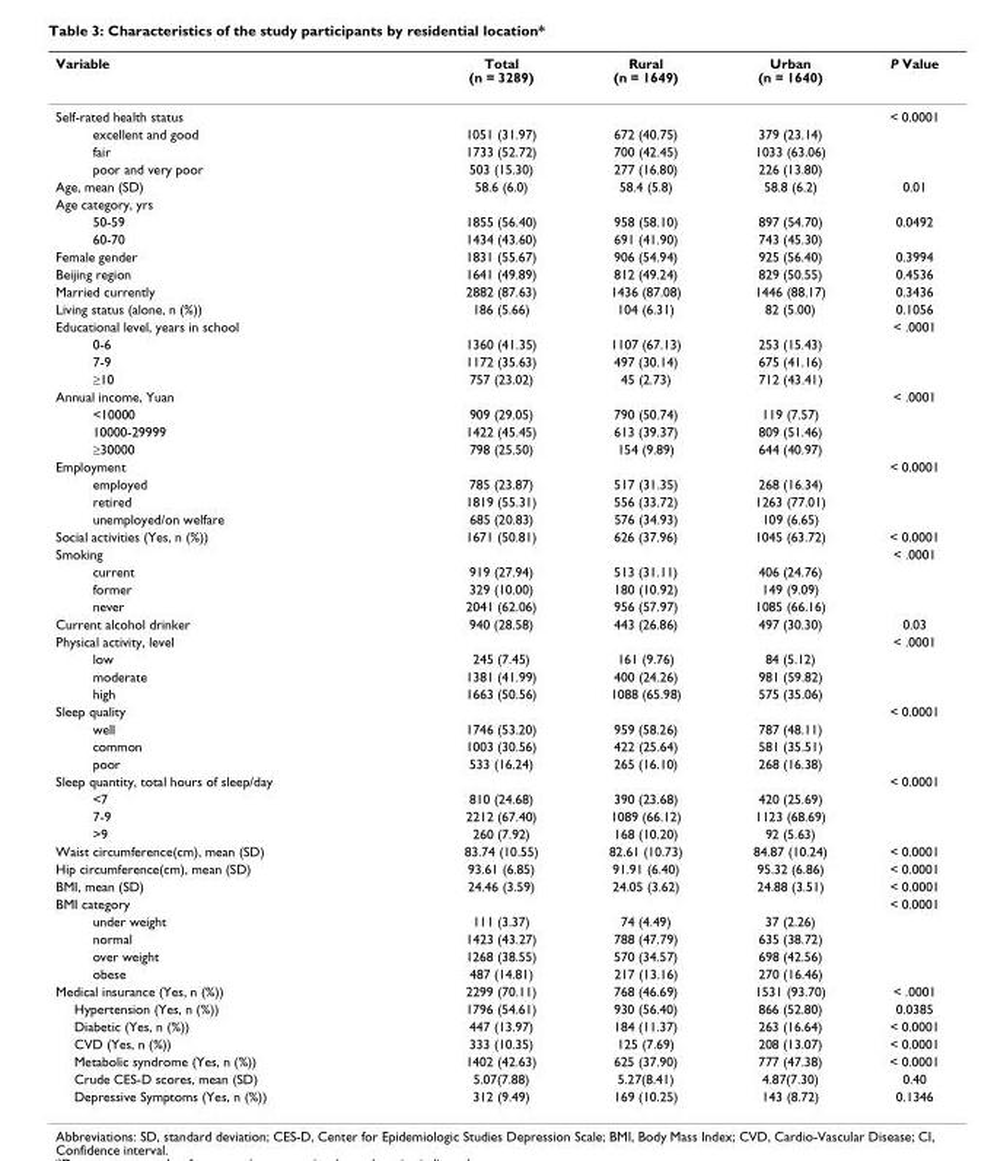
<table><thead><tr><td>Variable</td><td>Total (n = 3289)</td><td>Rural (n = 1649)</td><td>Urban (n = 1640)</td><td>P Value</td></tr></thead><tbody><tr><td>Self-rated health status</td><td></td><td></td><td></td><td>&lt; 0.0001</td></tr><tr><td>excellent and good</td><td>1051 (31.97)</td><td>672 (40.75)</td><td>379 (23.14)</td><td></td></tr><tr><td>fair</td><td>1733 (52.72)</td><td>700 (42.45)</td><td>1033 (63.06)</td><td></td></tr><tr><td>poor and very poor</td><td>503 (15.30)</td><td>277 (16.80)</td><td>226 (13.80)</td><td></td></tr><tr><td>Age, mean (SD)</td><td>58.6 (6.0)</td><td>58.4 (5.8)</td><td>58.8 (6.2)</td><td>0.01</td></tr><tr><td colspan="5">Age category, yrs</td></tr><tr><td>50-59</td><td>1855 (56.40)</td><td>958 (58.10)</td><td>897 (54.70)</td><td>0.0492</td></tr><tr><td>60-70</td><td>1434 (43.60)</td><td>691 (41.90)</td><td>743 (45.30)</td><td></td></tr><tr><td>Female gender</td><td>1831 (55.67)</td><td>906 (54.94)</td><td>925 (56.40)</td><td>0.3994</td></tr><tr><td>Beijing region</td><td>1641 (49.89)</td><td>812 (49.24)</td><td>829 (50.55)</td><td>0.4536</td></tr><tr><td>Married currently</td><td>2882 (87.63)</td><td>1436 (87.08)</td><td>1446 (88.17)</td><td>0.3436</td></tr><tr><td>Living status (alone, n (%))</td><td>186 (5.66)</td><td>104 (6.31)</td><td>82 (5.00)</td><td>0.1056</td></tr><tr><td>Educational level, years in school</td><td></td><td></td><td></td><td>&lt; .0001</td></tr><tr><td>0-6</td><td>1360 (41.35)</td><td>1107 (67.13)</td><td>253 (15.43)</td><td></td></tr><tr><td>7-9</td><td>1172 (35.63)</td><td>497 (30.14)</td><td>675 (41.16)</td><td></td></tr><tr><td>≥10</td><td>757 (23.02)</td><td>45 (2.73)</td><td>712 (43.41)</td><td></td></tr><tr><td>Annual income, Yuan</td><td></td><td></td><td></td><td>&lt; .0001</td></tr><tr><td>&lt;10000</td><td>909 (29.05)</td><td>790 (50.74)</td><td>119 (7.57)</td><td></td></tr><tr><td>10000-29999</td><td>1422 (45.45)</td><td>613 (39.37)</td><td>809 (51.46)</td><td></td></tr><tr><td>≥30000</td><td>798 (25.50)</td><td>154 (9.89)</td><td>644 (40.97)</td><td></td></tr><tr><td>Employment</td><td></td><td></td><td></td><td>&lt; 0.0001</td></tr><tr><td>employed</td><td>785 (23.87)</td><td>517 (31.35)</td><td>268 (16.34)</td><td></td></tr><tr><td>retired</td><td>1819 (55.31)</td><td>556 (33.72)</td><td>1263 (77.01)</td><td></td></tr><tr><td>unemployed/on welfare</td><td>685 (20.83)</td><td>576 (34.93)</td><td>109 (6.65)</td><td></td></tr><tr><td>Social activities (Yes, n (%))</td><td>1671 (50.81)</td><td>626 (37.96)</td><td>1045 (63.72)</td><td>&lt; 0.0001</td></tr><tr><td>Smoking</td><td></td><td></td><td></td><td>&lt; .0001</td></tr><tr><td>current</td><td>919 (27.94)</td><td>513 (31.11)</td><td>406 (24.76)</td><td></td></tr><tr><td>former</td><td>329 (10.00)</td><td>180 (10.92)</td><td>149 (9.09)</td><td></td></tr><tr><td>never</td><td>2041 (62.06)</td><td>956 (57.97)</td><td>1085 (66.16)</td><td></td></tr><tr><td>Current alcohol drinker</td><td>940 (28.58)</td><td>443 (26.86)</td><td>497 (30.30)</td><td>0.03</td></tr><tr><td>Physical activity, level</td><td></td><td></td><td></td><td>&lt; .0001</td></tr><tr><td>low</td><td>245 (7.45)</td><td>161 (9.76)</td><td>84 (5.12)</td><td></td></tr><tr><td>moderate</td><td>1381 (41.99)</td><td>400 (24.26)</td><td>981 (59.82)</td><td></td></tr><tr><td>high</td><td>1663 (50.56)</td><td>1088 (65.98)</td><td>575 (35.06)</td><td></td></tr><tr><td>Sleep quality</td><td></td><td></td><td></td><td>&lt; 0.0001</td></tr><tr><td>well</td><td>1746 (53.20)</td><td>959 (58.26)</td><td>787 (48.11)</td><td></td></tr><tr><td>common</td><td>1003 (30.56)</td><td>422 (25.64)</td><td>581 (35.51)</td><td></td></tr><tr><td>poor</td><td>533 (16.24)</td><td>265 (16.10)</td><td>268 (16.38)</td><td></td></tr><tr><td>Sleep quantity, total hours of sleep/day</td><td></td><td></td><td></td><td>&lt; 0.0001</td></tr><tr><td>&lt;7</td><td>810 (24.68)</td><td>390 (23.68)</td><td>420 (25.69)</td><td></td></tr><tr><td>7-9</td><td>2212 (67.40)</td><td>1089 (66.12)</td><td>1123 (68.69)</td><td></td></tr><tr><td>&gt;9</td><td>260 (7.92)</td><td>168 (10.20)</td><td>92 (5.63)</td><td></td></tr><tr><td>Waist circumference(cm), mean (SD)</td><td>83.74 (10.55)</td><td>82.61 (10.73)</td><td>84.87 (10.24)</td><td>&lt; 0.0001</td></tr><tr><td>Hip circumference(cm), mean (SD)</td><td>93.61 (6.85)</td><td>91.91 (6.40)</td><td>95.32 (6.86)</td><td>&lt; 0.0001</td></tr><tr><td>BMI, mean (SD)</td><td>24.46 (3.59)</td><td>24.05 (3.62)</td><td>24.88 (3.51)</td><td>&lt; 0.0001</td></tr><tr><td>BMI category</td><td></td><td></td><td></td><td>&lt; 0.0001</td></tr><tr><td>under weight</td><td>111 (3.37)</td><td>74 (4.49)</td><td>37 (2.26)</td><td></td></tr><tr><td>normal</td><td>1423 (43.27)</td><td>788 (47.79)</td><td>635 (38.72)</td><td></td></tr><tr><td>over weight</td><td>1268 (38.55)</td><td>570 (34.57)</td><td>698 (42.56)</td><td></td></tr><tr><td>obese</td><td>487 (14.81)</td><td>217 (13.16)</td><td>270 (16.46)</td><td></td></tr><tr><td>Medical insurance (Yes, n (%))</td><td>2299 (70.11)</td><td>768 (46.69)</td><td>1531 (93.70)</td><td>&lt; .0001</td></tr><tr><td>Hypertension (Yes, n (%))</td><td>1796 (54.61)</td><td>930 (56.40)</td><td>866 (52.80)</td><td>0.0385</td></tr><tr><td>Diabetic (Yes, n (%))</td><td>447 (13.97)</td><td>184 (11.37)</td><td>263 (16.64)</td><td>&lt; 0.0001</td></tr><tr><td>CVD (Yes, n (%))</td><td>333 (10.35)</td><td>125 (7.69)</td><td>208 (13.07)</td><td>&lt; 0.0001</td></tr><tr><td>Metabolic syndrome (Yes, n (%))</td><td>1402 (42.63)</td><td>625 (37.90)</td><td>777 (47.38)</td><td>&lt; 0.0001</td></tr><tr><td>Crude CES-D scores, mean (SD)</td><td>5.07(7.88)</td><td>5.27(8.41)</td><td>4.87(7.30)</td><td>0.40</td></tr><tr><td>Depressive Symptoms (Yes, n (%))</td><td>312 (9.49)</td><td>169 (10.25)</td><td>143 (8.72)</td><td>0.1346</td></tr></tbody></table>